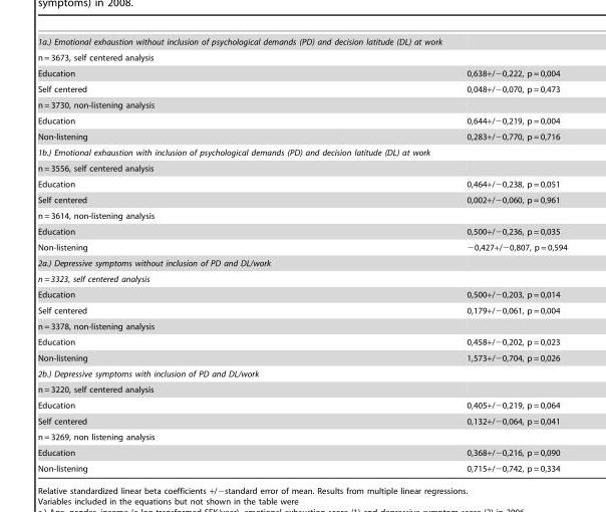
<table><tbody><tr><td colspan="2">1a.) Emotional exhaustion without inclusion of psychological demands (PD) and decision latitude (DL) at work</td></tr><tr><td colspan="2">n = 3673, self centered analysis</td></tr><tr><td>Education</td><td>0,638+/−0,222, p = 0,004</td></tr><tr><td>Self centered</td><td>0,048+/−0,070, p = 0,473</td></tr><tr><td colspan="2">n = 3730, non-listening analysis</td></tr><tr><td>Education</td><td>0,644+/−0,219, p = 0,004</td></tr><tr><td>Non-listening</td><td>0,283+/−0,770, p = 0,716</td></tr><tr><td colspan="2">1b.) Emotional exhaustion with inclusion of psychological demands (PD) and decision latitude (DL) at work</td></tr><tr><td colspan="2">n = 3556, self centered analysis</td></tr><tr><td>Education</td><td>0,464+/−0,238, p = 0,051</td></tr><tr><td>Self centered</td><td>0,002+/−0,060, p = 0,961</td></tr><tr><td colspan="2">n = 3614, non-listening analysis</td></tr><tr><td>Education</td><td>0,500+/−0,236, p = 0,035</td></tr><tr><td>Non-listening</td><td>−0,427+/−0,807, p = 0,594</td></tr><tr><td colspan="2">2a.) Depressive symptoms without inclusion of PD and DL/work</td></tr><tr><td colspan="2">n = 3323, self centered analysis</td></tr><tr><td>Education</td><td>0,500+/−0,203, p = 0,014</td></tr><tr><td>Self centered</td><td>0,179+/−0,061, p = 0,004</td></tr><tr><td colspan="2">n = 3378, non-listening analysis</td></tr><tr><td>Education</td><td>0,458+/−0,202, p = 0,023</td></tr><tr><td>Non-listening</td><td>1,573+/−0,704, p = 0,026</td></tr><tr><td colspan="2">2b.) Depressive symptoms with inclusion of PD and DL/work</td></tr><tr><td colspan="2">n = 3220, self centered analysis</td></tr><tr><td>Education</td><td>0,405+/−0,219, p = 0,064</td></tr><tr><td>Self centered</td><td>0,132+/−0,064, p = 0,041</td></tr><tr><td colspan="2">n = 3269, non listening analysis</td></tr><tr><td>Education</td><td>0,368+/−0,216, p = 0,090</td></tr><tr><td>Non-listening</td><td>0,715+/−0,742, p = 0,334</td></tr></tbody></table>